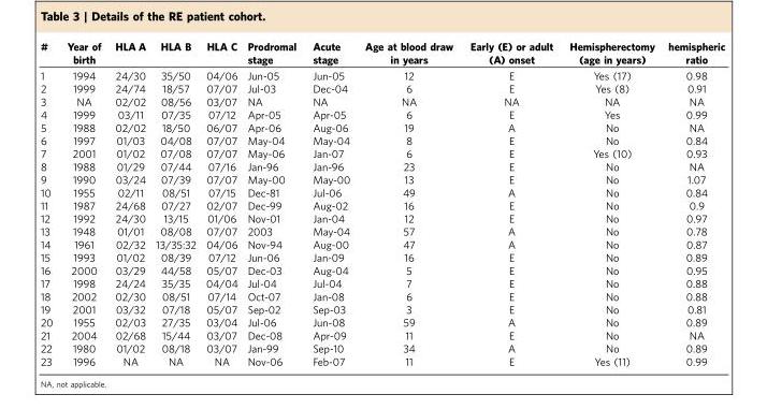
<table><thead><tr><td>#</td><td>Year of birth</td><td>HLA A</td><td>HLA B</td><td>HLA C</td><td>Prodromal stage</td><td>Acute stage</td><td>Age at blood draw in years</td><td>Early (E) or adult (A) onset</td><td>Hemispherectomy (age in years)</td><td>hemispheric ratio</td></tr></thead><tbody><tr><td>1</td><td>1994</td><td>24/30</td><td>35/50</td><td>04/06</td><td>Jun-05</td><td>Jun-05</td><td>12</td><td>E</td><td>Yes (17)</td><td>0.98</td></tr><tr><td>2</td><td>1999</td><td>24/74</td><td>18/57</td><td>07/07</td><td>Jul-03</td><td>Dec-04</td><td>6</td><td>E</td><td>Yes (8)</td><td>0.91</td></tr><tr><td>3</td><td>NA</td><td>02/02</td><td>08/56</td><td>03/07</td><td>NA</td><td>NA</td><td>NA</td><td>NA</td><td>NA</td><td>NA</td></tr><tr><td>4</td><td>1999</td><td>03/11</td><td>07/35</td><td>07/12</td><td>Apr-05</td><td>Apr-05</td><td>6</td><td>E</td><td>Yes</td><td>0.99</td></tr><tr><td>5</td><td>1988</td><td>02/02</td><td>18/50</td><td>06/07</td><td>Apr-06</td><td>Aug-06</td><td>19</td><td>A</td><td>No</td><td>NA</td></tr><tr><td>6</td><td>1997</td><td>01/03</td><td>04/08</td><td>07/07</td><td>May-04</td><td>May-04</td><td>8</td><td>E</td><td>No</td><td>0.84</td></tr><tr><td>7</td><td>2001</td><td>01/02</td><td>07/08</td><td>07/07</td><td>May-06</td><td>Jan-07</td><td>6</td><td>E</td><td>Yes (10)</td><td>0.93</td></tr><tr><td>8</td><td>1988</td><td>01/29</td><td>07/44</td><td>07/16</td><td>Jan-96</td><td>Jan-96</td><td>23</td><td>E</td><td>No</td><td>NA</td></tr><tr><td>9</td><td>1990</td><td>03/24</td><td>07/39</td><td>07/07</td><td>May-00</td><td>May-00</td><td>13</td><td>E</td><td>No</td><td>1.07</td></tr><tr><td>10</td><td>1955</td><td>02/11</td><td>08/51</td><td>07/15</td><td>Dec-81</td><td>Jul-06</td><td>49</td><td>A</td><td>No</td><td>0.84</td></tr><tr><td>11</td><td>1987</td><td>24/68</td><td>07/27</td><td>02/07</td><td>Dec-99</td><td>Aug-02</td><td>16</td><td>E</td><td>No</td><td>0.9</td></tr><tr><td>12</td><td>1992</td><td>24/30</td><td>13/15</td><td>01/06</td><td>Nov-01</td><td>Jan-04</td><td>12</td><td>E</td><td>No</td><td>0.97</td></tr><tr><td>13</td><td>1948</td><td>01/01</td><td>08/08</td><td>07/07</td><td>2003</td><td>May-04</td><td>57</td><td>A</td><td>No</td><td>0.78</td></tr><tr><td>14</td><td>1961</td><td>02/32</td><td>13/35:32</td><td>04/06</td><td>Nov-94</td><td>Aug-00</td><td>47</td><td>A</td><td>No</td><td>0.87</td></tr><tr><td>15</td><td>1993</td><td>01/02</td><td>08/39</td><td>07/12</td><td>Jun-06</td><td>Jan-09</td><td>16</td><td>E</td><td>No</td><td>0.89</td></tr><tr><td>16</td><td>2000</td><td>03/29</td><td>44/58</td><td>05/07</td><td>Dec-03</td><td>Aug-04</td><td>5</td><td>E</td><td>No</td><td>0.95</td></tr><tr><td>17</td><td>1998</td><td>24/24</td><td>35/35</td><td>04/04</td><td>Jul-04</td><td>Jul-04</td><td>7</td><td>E</td><td>No</td><td>0.88</td></tr><tr><td>18</td><td>2002</td><td>02/30</td><td>08/51</td><td>07/14</td><td>Oct-07</td><td>Jan-08</td><td>6</td><td>E</td><td>No</td><td>0.88</td></tr><tr><td>19</td><td>2001</td><td>03/32</td><td>07/18</td><td>05/07</td><td>Sep-02</td><td>Sep-03</td><td>3</td><td>E</td><td>No</td><td>0.81</td></tr><tr><td>20</td><td>1955</td><td>02/03</td><td>27/35</td><td>03/04</td><td>Jul-06</td><td>Jun-08</td><td>59</td><td>A</td><td>No</td><td>0.89</td></tr><tr><td>21</td><td>2004</td><td>02/68</td><td>15/44</td><td>03/07</td><td>Dec-08</td><td>Apr-09</td><td>11</td><td>E</td><td>No</td><td>NA</td></tr><tr><td>22</td><td>1980</td><td>01/02</td><td>08/18</td><td>03/07</td><td>Jan-99</td><td>Sep-10</td><td>34</td><td>A</td><td>No</td><td>0.89</td></tr><tr><td>23</td><td>1996</td><td>NA</td><td>NA</td><td>NA</td><td>Nov-06</td><td>Feb-07</td><td>11</td><td>E</td><td>Yes (11)</td><td>0.99</td></tr></tbody></table>